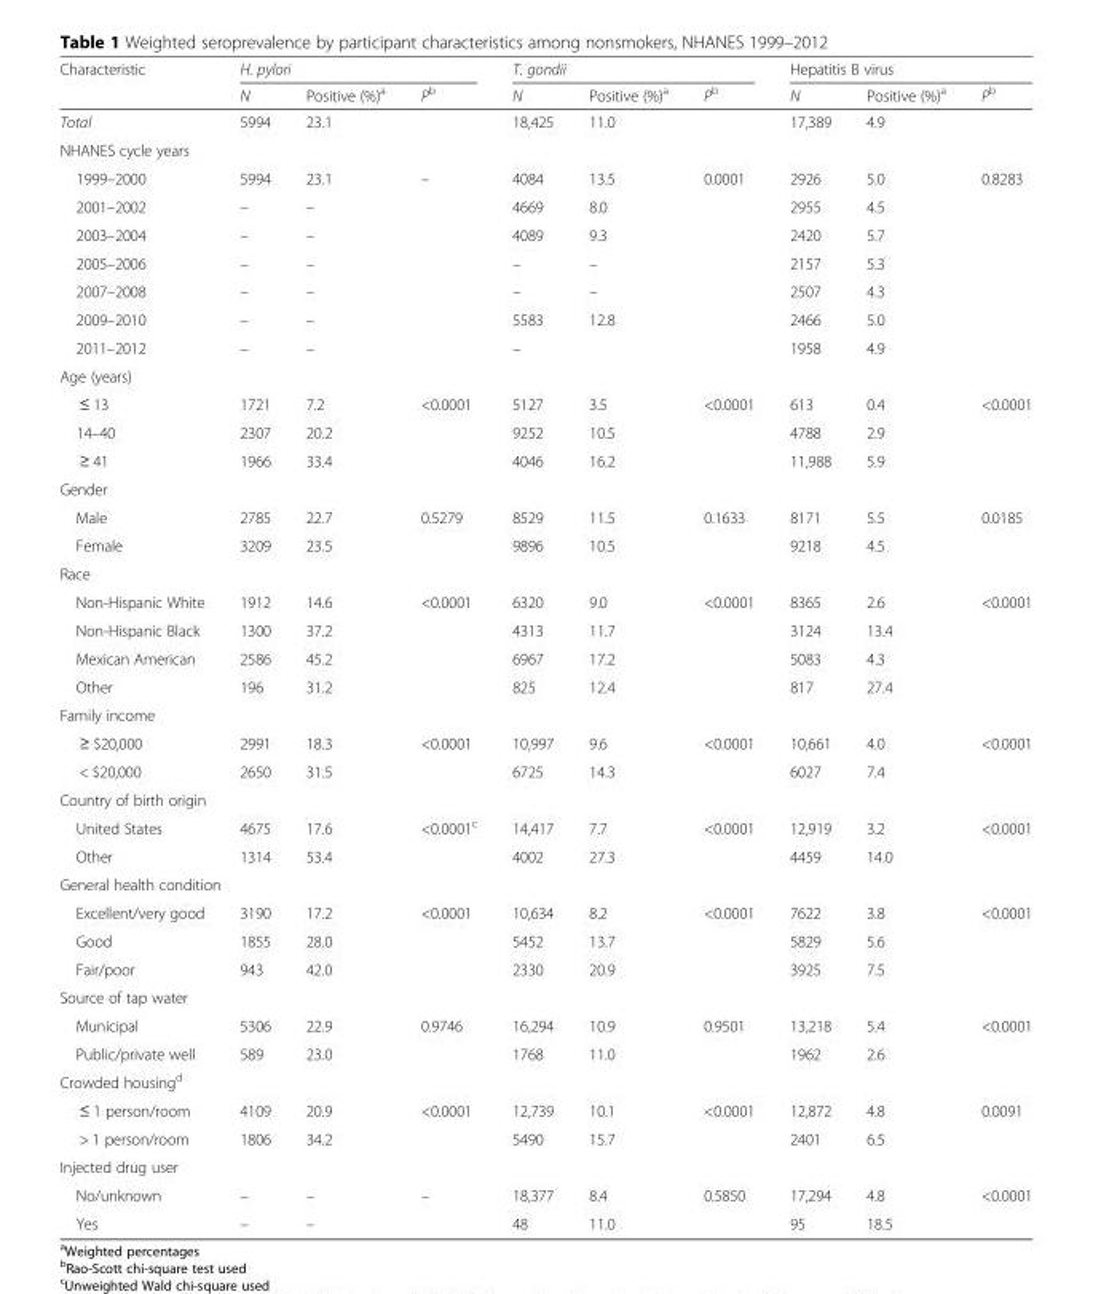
<table><thead><tr><td rowspan="2">Characteristic</td><td colspan="3">H. pylori</td><td colspan="3">T. gondii</td><td colspan="3">Hepatitis B virus</td></tr><tr><td>N</td><td>Positive (%)<sup>a</sup></td><td>P<sup>b</sup></td><td>N</td><td>Positive (%)<sup>a</sup></td><td>P<sup>b</sup></td><td>N</td><td>Positive (%)<sup>a</sup></td><td>P<sup>b</sup></td></tr></thead><tbody><tr><td>Total</td><td>5994</td><td>23.1</td><td></td><td>18,425</td><td>11.0</td><td></td><td>17,389</td><td>4.9</td><td></td></tr><tr><td colspan="10">NHANES cycle years</td></tr><tr><td>1999–2000</td><td>5994</td><td>23.1</td><td>–</td><td>4084</td><td>13.5</td><td>0.0001</td><td>2926</td><td>5.0</td><td>0.8283</td></tr><tr><td>2001–2002</td><td>–</td><td>–</td><td></td><td>4669</td><td>8.0</td><td></td><td>2955</td><td>4.5</td><td></td></tr><tr><td>2003–2004</td><td>–</td><td>–</td><td></td><td>4089</td><td>9.3</td><td></td><td>2420</td><td>5.7</td><td></td></tr><tr><td>2005–2006</td><td>–</td><td>–</td><td></td><td>–</td><td>–</td><td></td><td>2157</td><td>5.3</td><td></td></tr><tr><td>2007–2008</td><td>–</td><td>–</td><td></td><td>–</td><td>–</td><td></td><td>2507</td><td>4.3</td><td></td></tr><tr><td>2009–2010</td><td>–</td><td>–</td><td></td><td>5583</td><td>12.8</td><td></td><td>2466</td><td>5.0</td><td></td></tr><tr><td>2011–2012</td><td>–</td><td>–</td><td></td><td>–</td><td></td><td></td><td>1958</td><td>4.9</td><td></td></tr><tr><td colspan="10">Age (years)</td></tr><tr><td>≤ 13</td><td>1721</td><td>7.2</td><td>&lt;0.0001</td><td>5127</td><td>3.5</td><td>&lt;0.0001</td><td>613</td><td>0.4</td><td>&lt;0.0001</td></tr><tr><td>14–40</td><td>2307</td><td>20.2</td><td></td><td>9252</td><td>10.5</td><td></td><td>4788</td><td>2.9</td><td></td></tr><tr><td>≥ 41</td><td>1966</td><td>33.4</td><td></td><td>4046</td><td>16.2</td><td></td><td>11,988</td><td>5.9</td><td></td></tr><tr><td colspan="10">Gender</td></tr><tr><td>Male</td><td>2785</td><td>22.7</td><td>0.5279</td><td>8529</td><td>11.5</td><td>0.1633</td><td>8171</td><td>5.5</td><td>0.0185</td></tr><tr><td>Female</td><td>3209</td><td>23.5</td><td></td><td>9896</td><td>10.5</td><td></td><td>9218</td><td>4.5</td><td></td></tr><tr><td colspan="10">Race</td></tr><tr><td>Non-Hispanic White</td><td>1912</td><td>14.6</td><td>&lt;0.0001</td><td>6320</td><td>9.0</td><td>&lt;0.0001</td><td>8365</td><td>2.6</td><td>&lt;0.0001</td></tr><tr><td>Non-Hispanic Black</td><td>1300</td><td>37.2</td><td></td><td>4313</td><td>11.7</td><td></td><td>3124</td><td>13.4</td><td></td></tr><tr><td>Mexican American</td><td>2586</td><td>45.2</td><td></td><td>6967</td><td>17.2</td><td></td><td>5083</td><td>4.3</td><td></td></tr><tr><td>Other</td><td>196</td><td>31.2</td><td></td><td>825</td><td>12.4</td><td></td><td>817</td><td>27.4</td><td></td></tr><tr><td colspan="10">Family income</td></tr><tr><td>≥ $20,000</td><td>2991</td><td>18.3</td><td>&lt;0.0001</td><td>10,997</td><td>9.6</td><td>&lt;0.0001</td><td>10,661</td><td>4.0</td><td>&lt;0.0001</td></tr><tr><td>&lt; $20,000</td><td>2650</td><td>31.5</td><td></td><td>6725</td><td>14.3</td><td></td><td>6027</td><td>7.4</td><td></td></tr><tr><td colspan="10">Country of birth origin</td></tr><tr><td>United States</td><td>4675</td><td>17.6</td><td>&lt;0.0001<sup>c</sup></td><td>14,417</td><td>7.7</td><td>&lt;0.0001</td><td>12,919</td><td>3.2</td><td>&lt;0.0001</td></tr><tr><td>Other</td><td>1314</td><td>53.4</td><td></td><td>4002</td><td>27.3</td><td></td><td>4459</td><td>14.0</td><td></td></tr><tr><td colspan="10">General health condition</td></tr><tr><td>Excellent/very good</td><td>3190</td><td>17.2</td><td>&lt;0.0001</td><td>10,634</td><td>8.2</td><td>&lt;0.0001</td><td>7622</td><td>3.8</td><td>&lt;0.0001</td></tr><tr><td>Good</td><td>1855</td><td>28.0</td><td></td><td>5452</td><td>13.7</td><td></td><td>5829</td><td>5.6</td><td></td></tr><tr><td>Fair/poor</td><td>943</td><td>42.0</td><td></td><td>2330</td><td>20.9</td><td></td><td>3925</td><td>7.5</td><td></td></tr><tr><td colspan="10">Source of tap water</td></tr><tr><td>Municipal</td><td>5306</td><td>22.9</td><td>0.9746</td><td>16,294</td><td>10.9</td><td>0.9501</td><td>13,218</td><td>5.4</td><td>&lt;0.0001</td></tr><tr><td>Public/private well</td><td>589</td><td>23.0</td><td></td><td>1768</td><td>11.0</td><td></td><td>1962</td><td>2.6</td><td></td></tr><tr><td colspan="10">Crowded housing<sup>d</sup></td></tr><tr><td>≤ 1 person/room</td><td>4109</td><td>20.9</td><td>&lt;0.0001</td><td>12,739</td><td>10.1</td><td>&lt;0.0001</td><td>12,872</td><td>4.8</td><td>0.0091</td></tr><tr><td>&gt; 1 person/room</td><td>1806</td><td>34.2</td><td></td><td>5490</td><td>15.7</td><td></td><td>2401</td><td>6.5</td><td></td></tr><tr><td colspan="10">Injected drug user</td></tr><tr><td>No/unknown</td><td>–</td><td>–</td><td>–</td><td>18,377</td><td>8.4</td><td>0.5850</td><td>17,294</td><td>4.8</td><td>&lt;0.0001</td></tr><tr><td>Yes</td><td>–</td><td>–</td><td></td><td>48</td><td>11.0</td><td></td><td>95</td><td>18.5</td><td></td></tr></tbody></table>